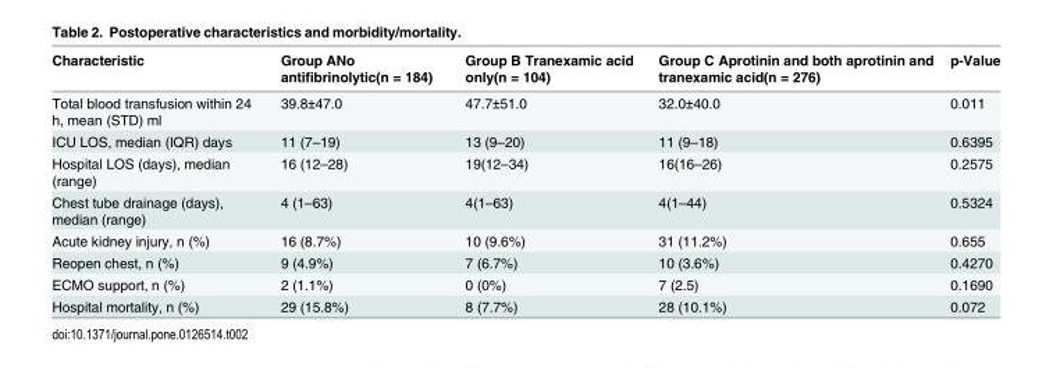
<table><thead><tr><td>Characteristic</td><td>Group ANo antifibrinolytic(n = 184)</td><td>Group B Tranexamic acid only(n = 104)</td><td>Group C Aprotinin and both aprotinin and tranexamic acid(n = 276)</td><td>p-Value</td></tr></thead><tbody><tr><td>Total blood transfusion within 24 h, mean (STD) ml</td><td>39.8±47.0</td><td>47.7±51.0</td><td>32.0±40.0</td><td>0.011</td></tr><tr><td>ICU LOS, median (IQR) days</td><td>11 (7–19)</td><td>13 (9–20)</td><td>11 (9–18)</td><td>0.6395</td></tr><tr><td>Hospital LOS (days), median (range)</td><td>16 (12–28)</td><td>19(12–34)</td><td>16(16–26)</td><td>0.2575</td></tr><tr><td>Chest tube drainage (days), median (range)</td><td>4 (1–63)</td><td>4(1–63)</td><td>4(1–44)</td><td>0.5324</td></tr><tr><td>Acute kidney injury, n (%)</td><td>16 (8.7%)</td><td>10 (9.6%)</td><td>31 (11.2%)</td><td>0.655</td></tr><tr><td>Reopen chest, n (%)</td><td>9 (4.9%)</td><td>7 (6.7%)</td><td>10 (3.6%)</td><td>0.4270</td></tr><tr><td>ECMO support, n (%)</td><td>2 (1.1%)</td><td>0 (0%)</td><td>7 (2.5)</td><td>0.1690</td></tr><tr><td>Hospital mortality, n (%)</td><td>29 (15.8%)</td><td>8 (7.7%)</td><td>28 (10.1%)</td><td>0.072</td></tr></tbody></table>